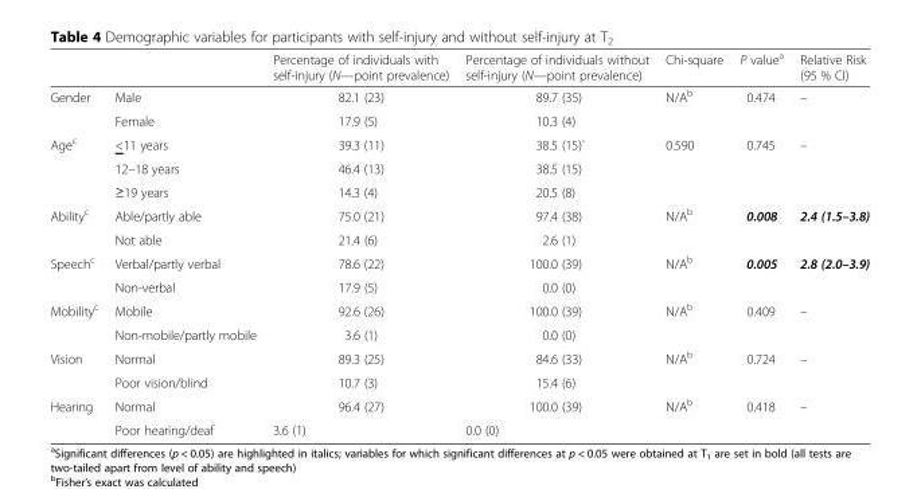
<table><thead><tr><td></td><td></td><td>Percentage of individuals with self-injury (N—point prevalence)</td><td>Percentage of individuals without self-injury (N—point prevalence)</td><td>Chi-square</td><td>P value<sup>a</sup></td><td>Relative Risk (95 % CI)</td></tr></thead><tbody><tr><td rowspan="2">Gender</td><td>Male</td><td>82.1 (23)</td><td>89.7 (35)</td><td rowspan="2">N/A<sup>b</sup></td><td rowspan="2">0.474</td><td rowspan="2">–</td></tr><tr><td>Female</td><td>17.9 (5)</td><td>10.3 (4)</td></tr><tr><td rowspan="3">Age<sup>c</sup></td><td>&lt;11 years</td><td>39.3 (11)</td><td>38.5 (15)`</td><td rowspan="3">0.590</td><td rowspan="3">0.745</td><td rowspan="3">–</td></tr><tr><td>12–18 years</td><td>46.4 (13)</td><td>38.5 (15)</td></tr><tr><td>≥19 years</td><td>14.3 (4)</td><td>20.5 (8)</td></tr><tr><td rowspan="2">Ability<sup>c</sup></td><td>Able/partly able</td><td>75.0 (21)</td><td>97.4 (38)</td><td rowspan="2">N/A<sup>b</sup></td><td rowspan="2">0.008</td><td rowspan="2">2.4 (1.5–3.8)</td></tr><tr><td>Not able</td><td>21.4 (6)</td><td>2.6 (1)</td></tr><tr><td rowspan="2">Speech<sup>c</sup></td><td>Verbal/partly verbal</td><td>78.6 (22)</td><td>100.0 (39)</td><td rowspan="2">N/A<sup>b</sup></td><td rowspan="2">0.005</td><td rowspan="2">2.8 (2.0–3.9)</td></tr><tr><td>Non-verbal</td><td>17.9 (5)</td><td>0.0 (0)</td></tr><tr><td rowspan="2">Mobility<sup>c</sup></td><td>Mobile</td><td>92.6 (26)</td><td>100.0 (39)</td><td rowspan="2">N/A<sup>b</sup></td><td rowspan="2">0.409</td><td rowspan="2">–</td></tr><tr><td>Non-mobile/partly mobile</td><td>3.6 (1)</td><td>0.0 (0)</td></tr><tr><td rowspan="2">Vision</td><td>Normal</td><td>89.3 (25)</td><td>84.6 (33)</td><td rowspan="2">N/A<sup>b</sup></td><td rowspan="2">0.724</td><td rowspan="2">–</td></tr><tr><td>Poor vision/blind</td><td>10.7 (3)</td><td>15.4 (6)</td></tr><tr><td rowspan="2">Hearing</td><td>Normal</td><td>96.4 (27)</td><td>100.0 (39)</td><td rowspan="2">N/A<sup>b</sup></td><td rowspan="2">0.418</td><td rowspan="2">–</td></tr><tr><td>Poor hearing/deaf</td><td>3.6 (1)</td><td>0.0 (0)</td></tr></tbody></table>